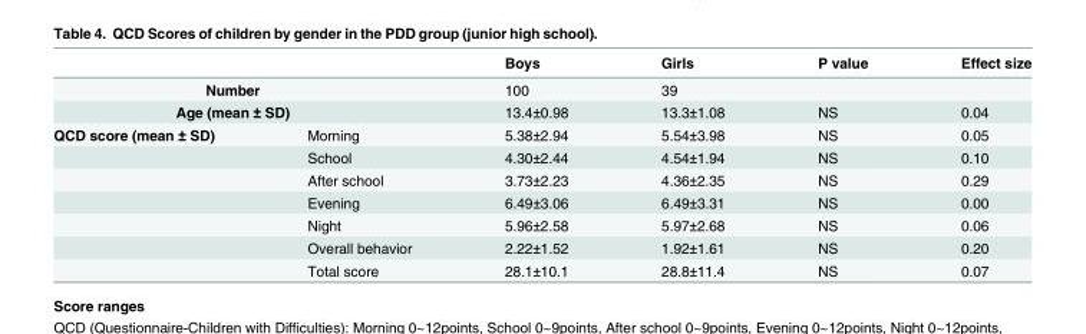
<table><thead><tr><td></td><td></td><td>Boys</td><td>Girls</td><td>P value</td><td>Effect size</td></tr></thead><tbody><tr><td colspan="2">Number</td><td>100</td><td>39</td><td></td><td></td></tr><tr><td colspan="2">Age (mean ± SD)</td><td>13.4±0.98</td><td>13.3±1.08</td><td>NS</td><td>0.04</td></tr><tr><td rowspan="7">QCD score (mean ± SD)</td><td>Morning</td><td>5.38±2.94</td><td>5.54±3.98</td><td>NS</td><td>0.05</td></tr><tr><td>School</td><td>4.30±2.44</td><td>4.54±1.94</td><td>NS</td><td>0.10</td></tr><tr><td>After school</td><td>3.73±2.23</td><td>4.36±2.35</td><td>NS</td><td>0.29</td></tr><tr><td>Evening</td><td>6.49±3.06</td><td>6.49±3.31</td><td>NS</td><td>0.00</td></tr><tr><td>Night</td><td>5.96±2.58</td><td>5.97±2.68</td><td>NS</td><td>0.06</td></tr><tr><td>Overall behavior</td><td>2.22±1.52</td><td>1.92±1.61</td><td>NS</td><td>0.20</td></tr><tr><td>Total score</td><td>28.1±10.1</td><td>28.8±11.4</td><td>NS</td><td>0.07</td></tr></tbody></table>